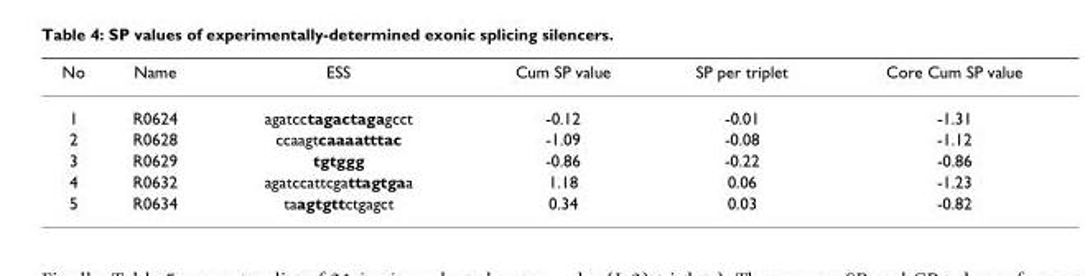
<table><thead><tr><td>No</td><td>Name</td><td>ESS</td><td>Cum SP value</td><td>SP per triplet</td><td>Core Cum SP value</td></tr></thead><tbody><tr><td>1</td><td>R0624</td><td>agatcctagactagagcct</td><td>-0.12</td><td>-0.01</td><td>-1.31</td></tr><tr><td>2</td><td>R0628</td><td>ccaagtcaaaatttac</td><td>-1.09</td><td>-0.08</td><td>-1.12</td></tr><tr><td>3</td><td>R0629</td><td>tgtggg</td><td>-0.86</td><td>-0.22</td><td>-0.86</td></tr><tr><td>4</td><td>R0632</td><td>agatccattcgattagtgaa</td><td>1.18</td><td>0.06</td><td>-1.23</td></tr><tr><td>5</td><td>R0634</td><td>taagtgttctgagct</td><td>0.34</td><td>0.03</td><td>-0.82</td></tr></tbody></table>